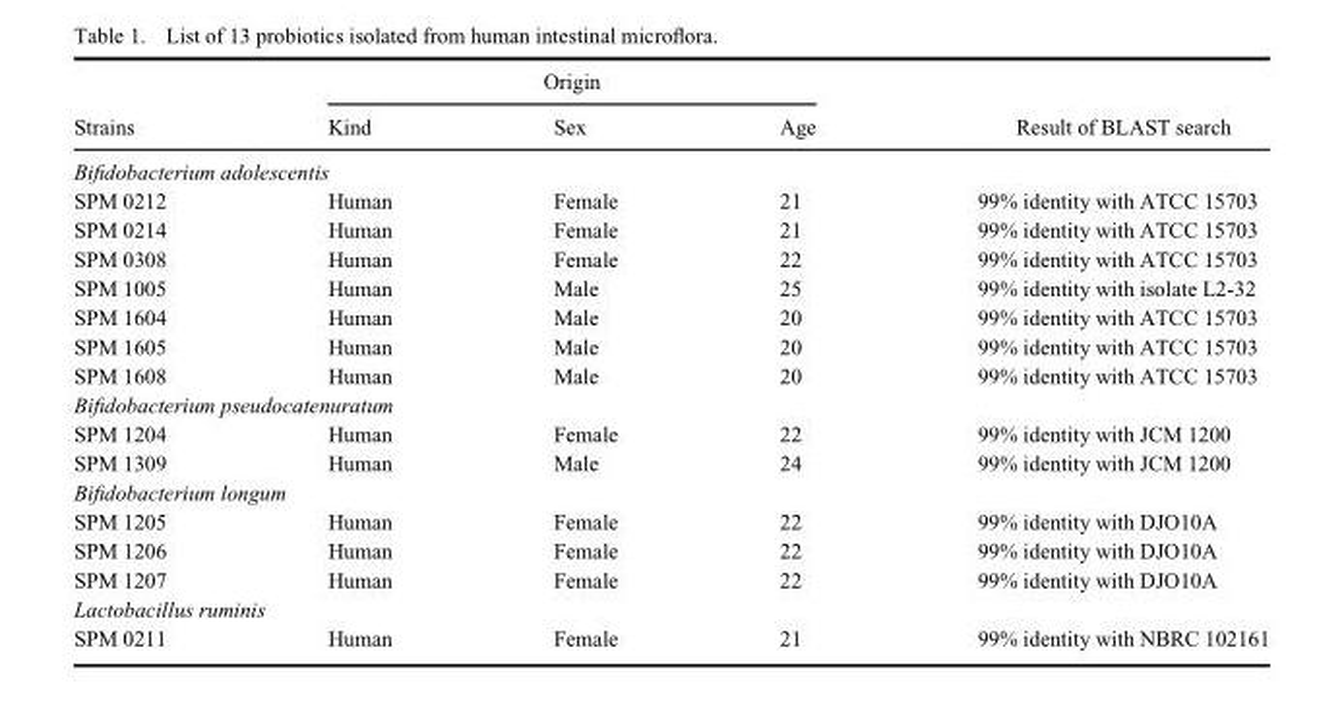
<table><thead><tr><td rowspan="2">Strains</td><td colspan="3">Origin</td><td rowspan="2">Result of BLAST search</td></tr><tr><td>Kind</td><td>Sex</td><td>Age</td></tr></thead><tbody><tr><td colspan="5">Bifidobacterium adolescentis</td></tr><tr><td>SPM 0212</td><td>Human</td><td>Female</td><td>21</td><td>99% identity with ATCC 15703</td></tr><tr><td>SPM 0214</td><td>Human</td><td>Female</td><td>21</td><td>99% identity with ATCC 15703</td></tr><tr><td>SPM 0308</td><td>Human</td><td>Female</td><td>22</td><td>99% identity with ATCC 15703</td></tr><tr><td>SPM 1005</td><td>Human</td><td>Male</td><td>25</td><td>99% identity with isolate L2-32</td></tr><tr><td>SPM 1604</td><td>Human</td><td>Male</td><td>20</td><td>99% identity with ATCC 15703</td></tr><tr><td>SPM 1605</td><td>Human</td><td>Male</td><td>20</td><td>99% identity with ATCC 15703</td></tr><tr><td>SPM 1608</td><td>Human</td><td>Male</td><td>20</td><td>99% identity with ATCC 15703</td></tr><tr><td colspan="5">Bifidobacterium pseudocatenuratum</td></tr><tr><td>SPM 1204</td><td>Human</td><td>Female</td><td>22</td><td>99% identity with JCM 1200</td></tr><tr><td>SPM 1309</td><td>Human</td><td>Male</td><td>24</td><td>99% identity with JCM 1200</td></tr><tr><td colspan="5">Bifidobacterium longum</td></tr><tr><td>SPM 1205</td><td>Human</td><td>Female</td><td>22</td><td>99% identity with DJO10A</td></tr><tr><td>SPM 1206</td><td>Human</td><td>Female</td><td>22</td><td>99% identity with DJO10A</td></tr><tr><td>SPM 1207</td><td>Human</td><td>Female</td><td>22</td><td>99% identity with DJO10A</td></tr><tr><td colspan="5">Lactobacillus ruminis</td></tr><tr><td>SPM 0211</td><td>Human</td><td>Female</td><td>21</td><td>99% identity with NBRC 102161</td></tr></tbody></table>